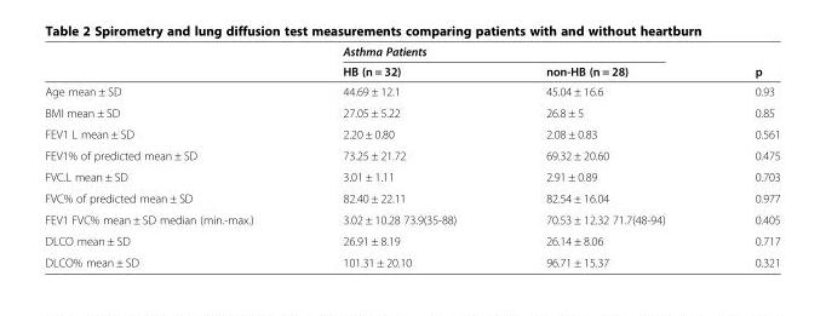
<table><thead><tr><td rowspan="2"></td><td colspan="2">Asthma Patients</td><td rowspan="2">p</td></tr><tr><td>HB (n = 32)</td><td>non-HB (n = 28)</td></tr></thead><tbody><tr><td>Age mean ± SD</td><td>44.69 ± 12.1</td><td>45.04 ± 16.6</td><td>0.93</td></tr><tr><td>BMI mean ± SD</td><td>27.05 ± 5.22</td><td>26.8 ± 5</td><td>0.85</td></tr><tr><td>FEV1 L mean ± SD</td><td>2.20 ± 0.80</td><td>2.08 ± 0.83</td><td>0.561</td></tr><tr><td>FEV1% of predicted mean ± SD</td><td>73.25 ± 21.72</td><td>69.32 ± 20.60</td><td>0.475</td></tr><tr><td>FVC.L mean ± SD</td><td>3.01 ± 1.11</td><td>2.91 ± 0.89</td><td>0.703</td></tr><tr><td>FVC% of predicted mean ± SD</td><td>82.40 ± 22.11</td><td>82.54 ± 16.04</td><td>0.977</td></tr><tr><td>FEV1 FVC% mean ± SD median (min.-max.)</td><td>3.02 ± 10.28 73.9(35-88)</td><td>70.53 ± 12.32 71.7(48-94)</td><td>0.405</td></tr><tr><td>DLCO mean ± SD</td><td>26.91 ± 8.19</td><td>26.14 ± 8.06</td><td>0.717</td></tr><tr><td>DLCO% mean ± SD</td><td>101.31 ± 20.10</td><td>96.71 ± 15.37</td><td>0.321</td></tr></tbody></table>